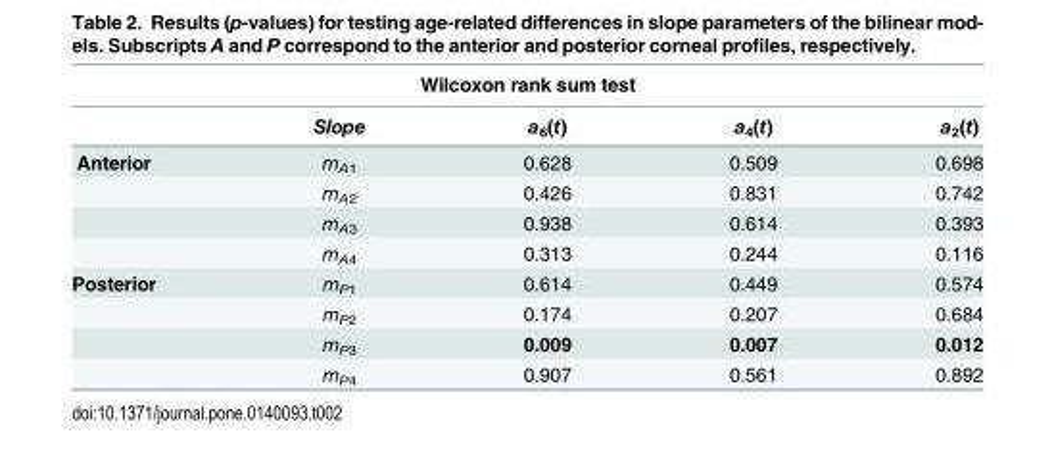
<table><thead><tr><td colspan="5">Wilcoxon rank sum test</td></tr><tr><td></td><td>Slope</td><td>a<sub>6</sub>(t)</td><td>a<sub>4</sub>(t)</td><td>a<sub>2</sub>(t)</td></tr></thead><tbody><tr><td rowspan="4">Anterior</td><td>m<sub>A1</sub></td><td>0.628</td><td>0.509</td><td>0.698</td></tr><tr><td>m<sub>A2</sub></td><td>0.426</td><td>0.831</td><td>0.742</td></tr><tr><td>m<sub>A3</sub></td><td>0.938</td><td>0.614</td><td>0.393</td></tr><tr><td>m<sub>A4</sub></td><td>0.313</td><td>0.244</td><td>0.116</td></tr><tr><td rowspan="4">Posterior</td><td>m<sub>P1</sub></td><td>0.614</td><td>0.449</td><td>0.574</td></tr><tr><td>m<sub>P2</sub></td><td>0.174</td><td>0.207</td><td>0.684</td></tr><tr><td>m<sub>P3</sub></td><td>0.009</td><td>0.007</td><td>0.012</td></tr><tr><td>m<sub>P4</sub></td><td>0.907</td><td>0.561</td><td>0.892</td></tr></tbody></table>